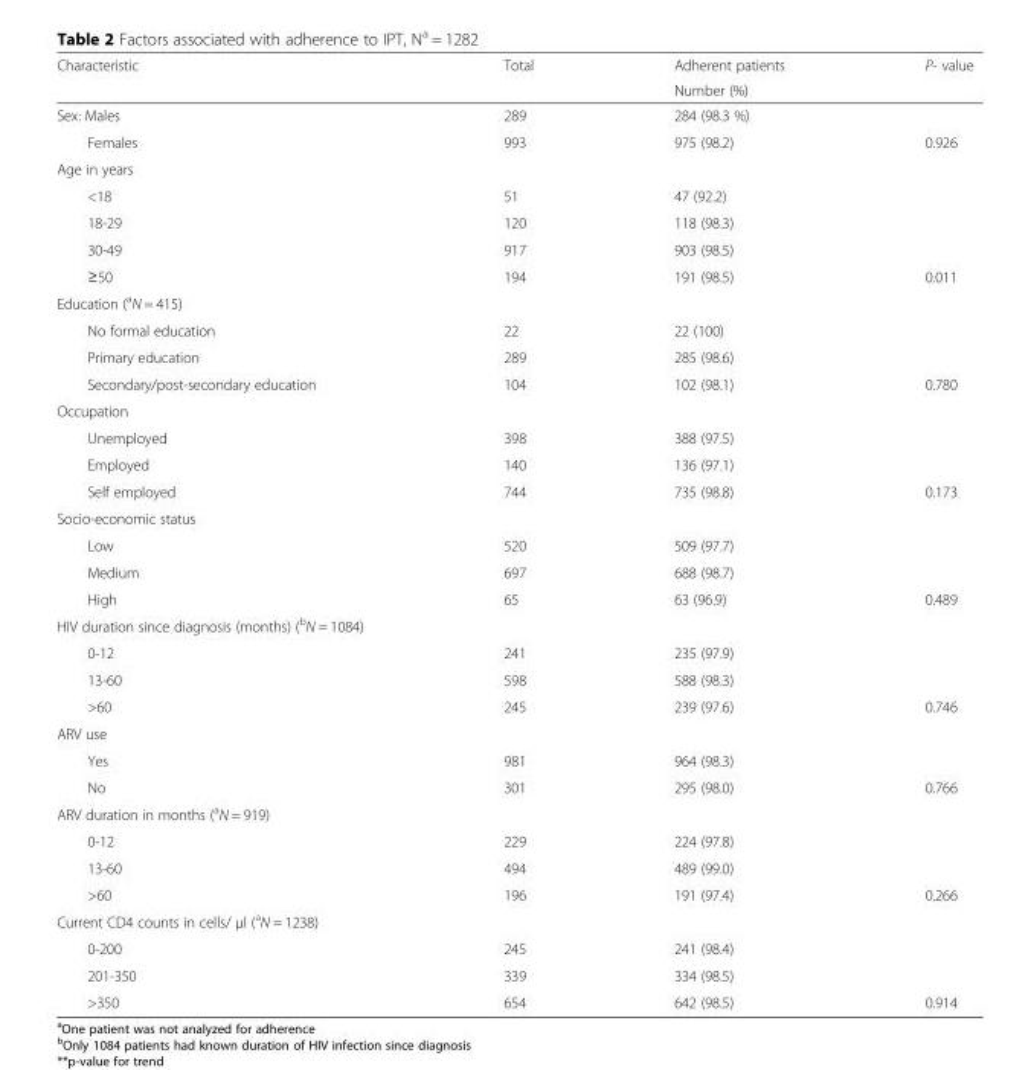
<table><thead><tr><td rowspan="2">Characteristic</td><td rowspan="2">Total</td><td rowspan="2">Adherent patients Number (%)</td><td rowspan="2">P- value</td></tr><tr></tr></thead><tbody><tr><td>Sex: Males</td><td>289</td><td>284 (98.3 %)</td><td></td></tr><tr><td>Females</td><td>993</td><td>975 (98.2)</td><td>0.926</td></tr><tr><td colspan="4">Age in years</td></tr><tr><td>&lt;18</td><td>51</td><td>47 (92.2)</td><td></td></tr><tr><td>18-29</td><td>120</td><td>118 (98.3)</td><td></td></tr><tr><td>30-49</td><td>917</td><td>903 (98.5)</td><td></td></tr><tr><td>≥50</td><td>194</td><td>191 (98.5)</td><td>0.011</td></tr><tr><td colspan="4">Education (<sup>a</sup>N = 415)</td></tr><tr><td>No formal education</td><td>22</td><td>22 (100)</td><td></td></tr><tr><td>Primary education</td><td>289</td><td>285 (98.6)</td><td></td></tr><tr><td>Secondary/post-secondary education</td><td>104</td><td>102 (98.1)</td><td>0.780</td></tr><tr><td colspan="4">Occupation</td></tr><tr><td>Unemployed</td><td>398</td><td>388 (97.5)</td><td></td></tr><tr><td>Employed</td><td>140</td><td>136 (97.1)</td><td></td></tr><tr><td>Self employed</td><td>744</td><td>735 (98.8)</td><td>0.173</td></tr><tr><td colspan="4">Socio-economic status</td></tr><tr><td>Low</td><td>520</td><td>509 (97.7)</td><td></td></tr><tr><td>Medium</td><td>697</td><td>688 (98.7)</td><td></td></tr><tr><td>High</td><td>65</td><td>63 (96.9)</td><td>0.489</td></tr><tr><td colspan="4">HIV duration since diagnosis (months) (<sup>b</sup>N = 1084)</td></tr><tr><td>0-12</td><td>241</td><td>235 (97.9)</td><td></td></tr><tr><td>13-60</td><td>598</td><td>588 (98.3)</td><td></td></tr><tr><td>&gt;60</td><td>245</td><td>239 (97.6)</td><td>0.746</td></tr><tr><td colspan="4">ARV use</td></tr><tr><td>Yes</td><td>981</td><td>964 (98.3)</td><td></td></tr><tr><td>No</td><td>301</td><td>295 (98.0)</td><td>0.766</td></tr><tr><td colspan="4">ARV duration in months (<sup>a</sup>N = 919)</td></tr><tr><td>0-12</td><td>229</td><td>224 (97.8)</td><td></td></tr><tr><td>13-60</td><td>494</td><td>489 (99.0)</td><td></td></tr><tr><td>&gt;60</td><td>196</td><td>191 (97.4)</td><td>0.266</td></tr><tr><td colspan="4">Current CD4 counts in cells/ μl (<sup>a</sup>N = 1238)</td></tr><tr><td>0-200</td><td>245</td><td>241 (98.4)</td><td></td></tr><tr><td>201-350</td><td>339</td><td>334 (98.5)</td><td></td></tr><tr><td>&gt;350</td><td>654</td><td>642 (98.5)</td><td>0.914</td></tr></tbody></table>